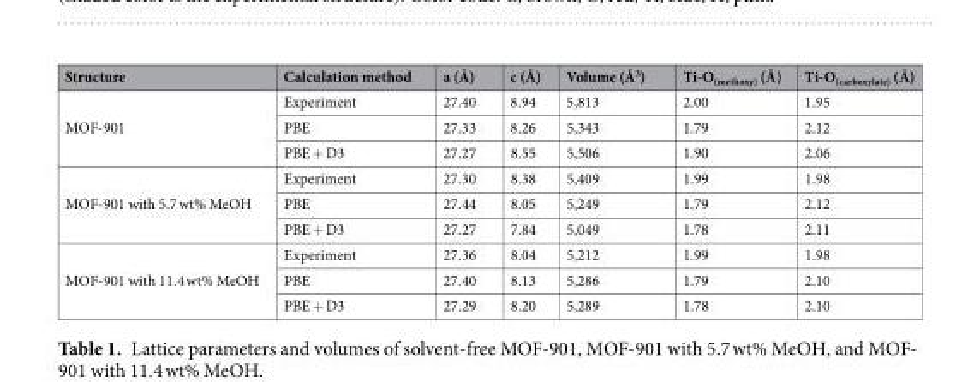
<table><thead><tr><td>Structure</td><td>Calculation method</td><td>a (Å)</td><td>c (Å)</td><td>Volume (Å<sup>3</sup>)</td><td>Ti-O<sub>(methoxy)</sub> (Å)</td><td>Ti-O<sub>(carboxylate)</sub> (Å)</td></tr></thead><tbody><tr><td rowspan="3">MOF-901</td><td>Experiment</td><td>27.40</td><td>8.94</td><td>5,813</td><td>2.00</td><td>1.95</td></tr><tr><td>PBE</td><td>27.33</td><td>8.26</td><td>5,343</td><td>1.79</td><td>2.12</td></tr><tr><td>PBE + D3</td><td>27.27</td><td>8.55</td><td>5,506</td><td>1.90</td><td>2.06</td></tr><tr><td rowspan="3">MOF-901 with 5.7 wt% MeOH</td><td>Experiment</td><td>27.30</td><td>8.38</td><td>5,409</td><td>1.99</td><td>1.98</td></tr><tr><td>PBE</td><td>27.44</td><td>8.05</td><td>5,249</td><td>1.79</td><td>2.12</td></tr><tr><td>PBE + D3</td><td>27.27</td><td>7.84</td><td>5,049</td><td>1.78</td><td>2.11</td></tr><tr><td rowspan="3">MOF-901 with 11.4 wt% MeOH</td><td>Experiment</td><td>27.36</td><td>8.04</td><td>5,212</td><td>1.99</td><td>1.98</td></tr><tr><td>PBE</td><td>27.40</td><td>8.13</td><td>5,286</td><td>1.79</td><td>2.10</td></tr><tr><td>PBE + D3</td><td>27.29</td><td>8.20</td><td>5,289</td><td>1.78</td><td>2.10</td></tr></tbody></table>